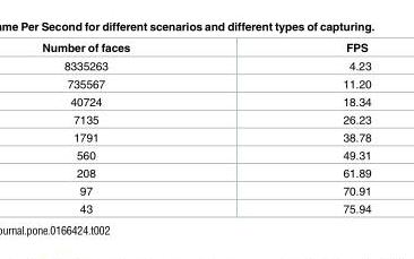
<table><thead><tr><td>Number of faces</td><td>FPS</td></tr></thead><tbody><tr><td>8335263</td><td>4.23</td></tr><tr><td>735567</td><td>11.20</td></tr><tr><td>40724</td><td>18.34</td></tr><tr><td>7135</td><td>26.23</td></tr><tr><td>1791</td><td>38.78</td></tr><tr><td>560</td><td>49.31</td></tr><tr><td>208</td><td>61.89</td></tr><tr><td>97</td><td>70.91</td></tr><tr><td>43</td><td>75.94</td></tr></tbody></table>